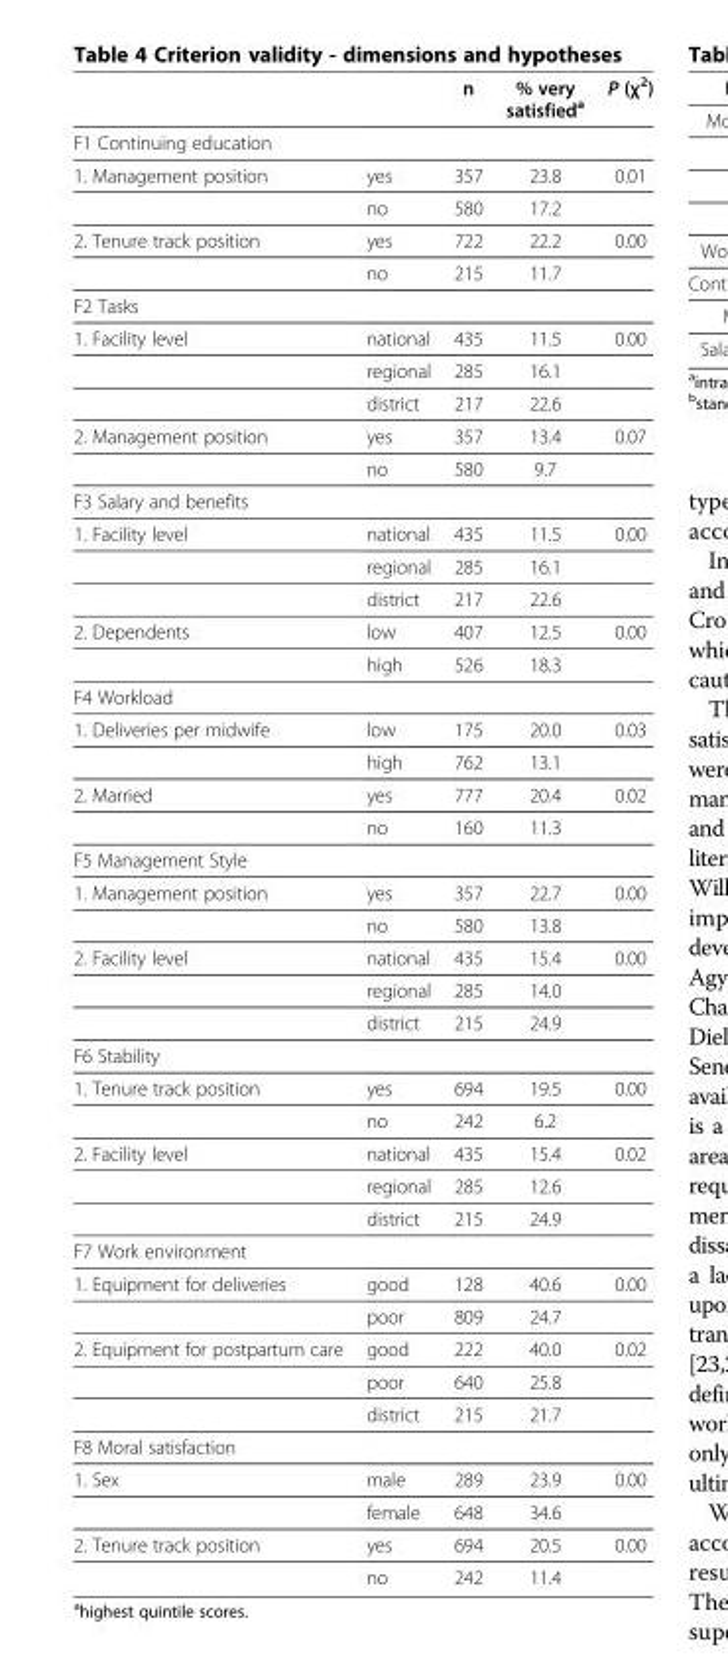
<table><thead><tr><td></td><td></td><td>n</td><td>% very satisfied<sup>a</sup></td><td>P (χ<sup>2</sup>)</td></tr></thead><tbody><tr><td colspan="5">F1 Continuing education</td></tr><tr><td rowspan="2">1. Management position</td><td>yes</td><td>357</td><td>23.8</td><td>0.01</td></tr><tr><td>no</td><td>580</td><td>17.2</td><td></td></tr><tr><td rowspan="2">2. Tenure track position</td><td>yes</td><td>722</td><td>22.2</td><td>0.00</td></tr><tr><td>no</td><td>215</td><td>11.7</td><td></td></tr><tr><td colspan="5">F2 Tasks</td></tr><tr><td rowspan="3">1. Facility level</td><td>national</td><td>435</td><td>11.5</td><td>0.00</td></tr><tr><td>regional</td><td>285</td><td>16.1</td><td></td></tr><tr><td>district</td><td>217</td><td>22.6</td><td></td></tr><tr><td rowspan="2">2. Management position</td><td>yes</td><td>357</td><td>13.4</td><td>0.07</td></tr><tr><td>no</td><td>580</td><td>9.7</td><td></td></tr><tr><td colspan="5">F3 Salary and benefits</td></tr><tr><td rowspan="3">1. Facility level</td><td>national</td><td>435</td><td>11.5</td><td>0.00</td></tr><tr><td>regional</td><td>285</td><td>16.1</td><td></td></tr><tr><td>district</td><td>217</td><td>22.6</td><td></td></tr><tr><td rowspan="2">2. Dependents</td><td>low</td><td>407</td><td>12.5</td><td>0.00</td></tr><tr><td>high</td><td>526</td><td>18.3</td><td></td></tr><tr><td colspan="5">F4 Workload</td></tr><tr><td rowspan="2">1. Deliveries per midwife</td><td>low</td><td>175</td><td>20.0</td><td>0.03</td></tr><tr><td>high</td><td>762</td><td>13.1</td><td></td></tr><tr><td rowspan="2">2. Married</td><td>yes</td><td>777</td><td>20.4</td><td>0.02</td></tr><tr><td>no</td><td>160</td><td>11.3</td><td></td></tr><tr><td colspan="5">F5 Management Style</td></tr><tr><td rowspan="2">1. Management position</td><td>yes</td><td>357</td><td>22.7</td><td>0.00</td></tr><tr><td>no</td><td>580</td><td>13.8</td><td></td></tr><tr><td rowspan="3">2. Facility level</td><td>national</td><td>435</td><td>15.4</td><td>0.00</td></tr><tr><td>regional</td><td>285</td><td>14.0</td><td></td></tr><tr><td>district</td><td>215</td><td>24.9</td><td></td></tr><tr><td colspan="5">F6 Stability</td></tr><tr><td rowspan="2">1. Tenure track position</td><td>yes</td><td>694</td><td>19.5</td><td>0.00</td></tr><tr><td>no</td><td>242</td><td>6.2</td><td></td></tr><tr><td rowspan="3">2. Facility level</td><td>national</td><td>435</td><td>15.4</td><td>0.02</td></tr><tr><td>regional</td><td>285</td><td>12.6</td><td></td></tr><tr><td>district</td><td>215</td><td>24.9</td><td></td></tr><tr><td colspan="5">F7 Work environment</td></tr><tr><td rowspan="2">1. Equipment for deliveries</td><td>good</td><td>128</td><td>40.6</td><td>0.00</td></tr><tr><td>poor</td><td>809</td><td>24.7</td><td></td></tr><tr><td rowspan="3">2. Equipment for postpartum care</td><td>good</td><td>222</td><td>40.0</td><td>0.02</td></tr><tr><td>poor</td><td>640</td><td>25.8</td><td></td></tr><tr><td>district</td><td>215</td><td>21.7</td><td></td></tr><tr><td colspan="5">F8 Moral satisfaction</td></tr><tr><td rowspan="2">1. Sex</td><td>male</td><td>289</td><td>23.9</td><td>0.00</td></tr><tr><td>female</td><td>648</td><td>34.6</td><td></td></tr><tr><td rowspan="2">2. Tenure track position</td><td>yes</td><td>694</td><td>20.5</td><td>0.00</td></tr><tr><td>no</td><td>242</td><td>11.4</td><td></td></tr></tbody></table>